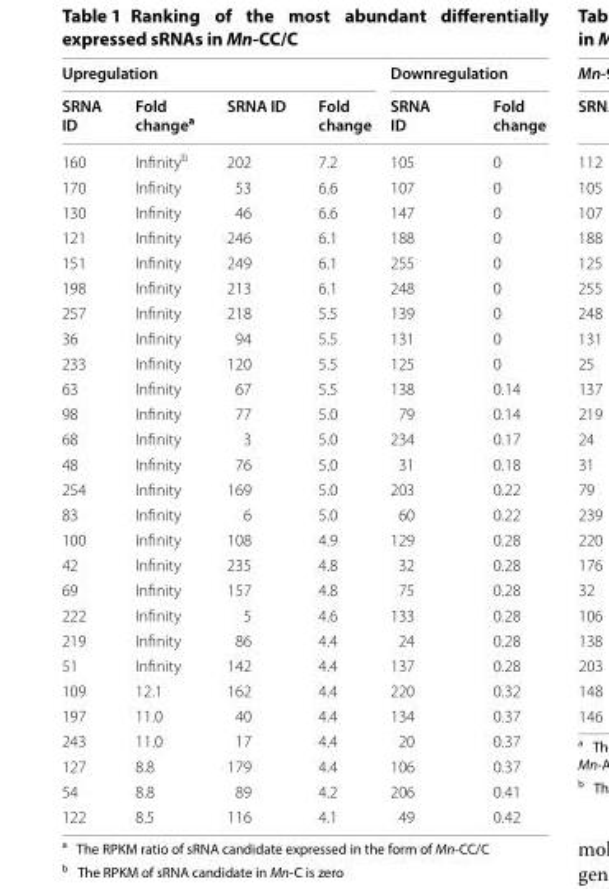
<table><thead><tr><td colspan="4">Upregulation</td><td colspan="2">Downregulation</td></tr><tr><td>SRNA ID</td><td>Fold change<sup>a</sup></td><td>SRNA ID</td><td>Fold change</td><td>SRNA ID</td><td>Fold change</td></tr></thead><tbody><tr><td>160</td><td>Infinity<sup>b</sup></td><td>202</td><td>7.2</td><td>105</td><td>0</td></tr><tr><td>170</td><td>Infinity</td><td>53</td><td>6.6</td><td>107</td><td>0</td></tr><tr><td>130</td><td>Infinity</td><td>46</td><td>6.6</td><td>147</td><td>0</td></tr><tr><td>121</td><td>Infinity</td><td>246</td><td>6.1</td><td>188</td><td>0</td></tr><tr><td>151</td><td>Infinity</td><td>249</td><td>6.1</td><td>255</td><td>0</td></tr><tr><td>198</td><td>Infinity</td><td>213</td><td>6.1</td><td>248</td><td>0</td></tr><tr><td>257</td><td>Infinity</td><td>218</td><td>5.5</td><td>139</td><td>0</td></tr><tr><td>36</td><td>Infinity</td><td>94</td><td>5.5</td><td>131</td><td>0</td></tr><tr><td>233</td><td>Infinity</td><td>120</td><td>5.5</td><td>125</td><td>0</td></tr><tr><td>63</td><td>Infinity</td><td>67</td><td>5.5</td><td>138</td><td>0.14</td></tr><tr><td>98</td><td>Infinity</td><td>77</td><td>5.0</td><td>79</td><td>0.14</td></tr><tr><td>68</td><td>Infinity</td><td>3</td><td>5.0</td><td>234</td><td>0.17</td></tr><tr><td>48</td><td>Infinity</td><td>76</td><td>5.0</td><td>31</td><td>0.18</td></tr><tr><td>254</td><td>Infinity</td><td>169</td><td>5.0</td><td>203</td><td>0.22</td></tr><tr><td>83</td><td>Infinity</td><td>6</td><td>5.0</td><td>60</td><td>0.22</td></tr><tr><td>100</td><td>Infinity</td><td>108</td><td>4.9</td><td>129</td><td>0.28</td></tr><tr><td>42</td><td>Infinity</td><td>235</td><td>4.8</td><td>32</td><td>0.28</td></tr><tr><td>69</td><td>Infinity</td><td>157</td><td>4.8</td><td>75</td><td>0.28</td></tr><tr><td>222</td><td>Infinity</td><td>5</td><td>4.6</td><td>133</td><td>0.28</td></tr><tr><td>219</td><td>Infinity</td><td>86</td><td>4.4</td><td>24</td><td>0.28</td></tr><tr><td>51</td><td>Infinity</td><td>142</td><td>4.4</td><td>137</td><td>0.28</td></tr><tr><td>109</td><td>12.1</td><td>162</td><td>4.4</td><td>220</td><td>0.32</td></tr><tr><td>197</td><td>11.0</td><td>40</td><td>4.4</td><td>134</td><td>0.37</td></tr><tr><td>243</td><td>11.0</td><td>17</td><td>4.4</td><td>20</td><td>0.37</td></tr><tr><td>127</td><td>8.8</td><td>179</td><td>4.4</td><td>106</td><td>0.37</td></tr><tr><td>54</td><td>8.8</td><td>89</td><td>4.2</td><td>206</td><td>0.41</td></tr><tr><td>122</td><td>8.5</td><td>116</td><td>4.1</td><td>49</td><td>0.42</td></tr></tbody></table>